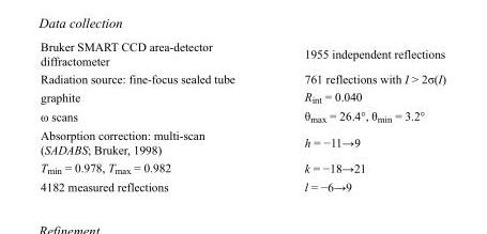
<table><tbody><tr><td>Bruker SMART CCD area-detector diffractometer</td><td>1955 independent reflections</td></tr><tr><td>Radiation source: fine-focus sealed tube</td><td>761 reflections with I &gt; 2σ(I)</td></tr><tr><td>graphite</td><td>R<sub>int</sub> = 0.040</td></tr><tr><td>ω scans</td><td>θ<sub>max</sub> = 26.4°, θ<sub>min</sub> = 3.2°</td></tr><tr><td>Absorption correction: multi-scan (SADABS; Bruker, 1998)</td><td>h = −11→9</td></tr><tr><td>T<sub>min</sub> = 0.978, T<sub>max</sub> = 0.982</td><td>k = −18→21</td></tr><tr><td>4182 measured reflections</td><td>l = −6→9</td></tr></tbody></table>